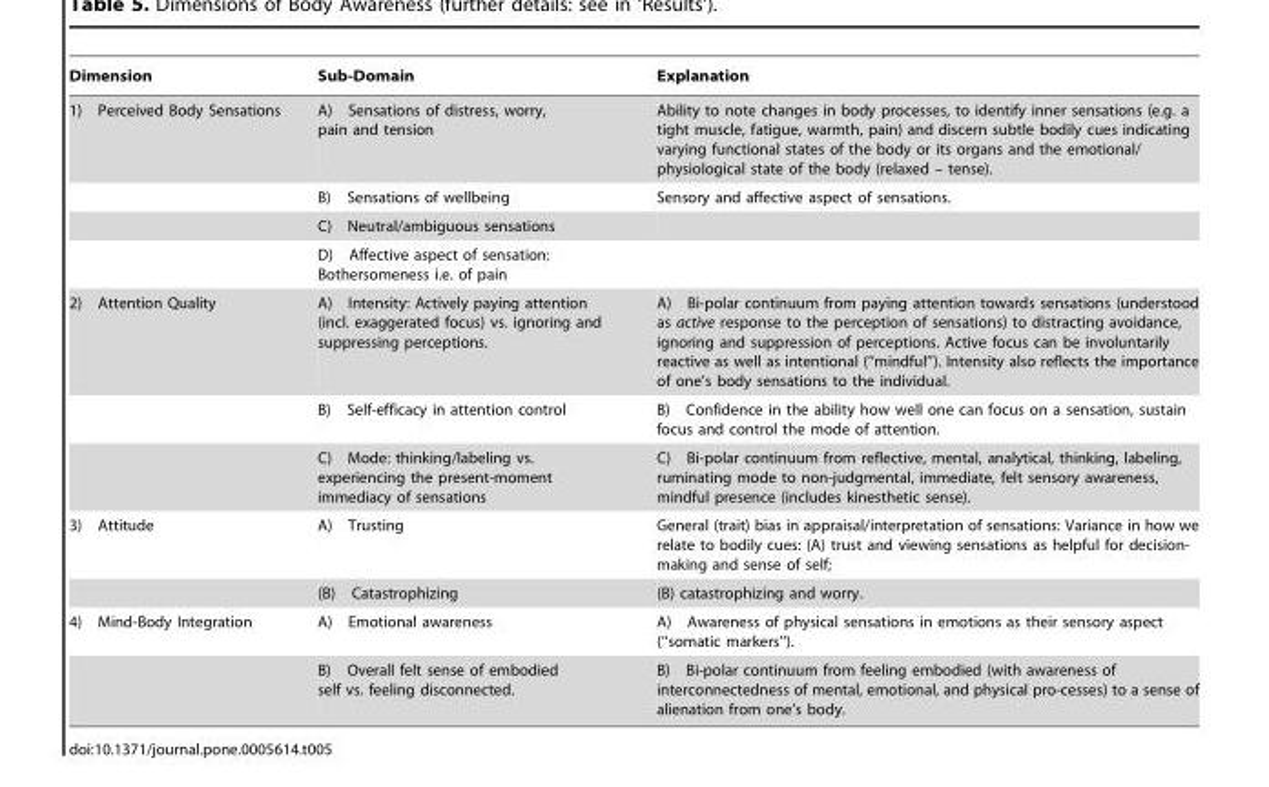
<table><thead><tr><td>Dimension</td><td>Sub-Domain</td><td>Explanation</td></tr></thead><tbody><tr><td rowspan="4">1) Perceived Body Sensations</td><td>A) Sensations of distress, worry, pain and tension</td><td>Ability to note changes in body processes, to identify inner sensations (e.g. a tight muscle, fatigue, warmth, pain) and discern subtle bodily cues indicating varying functional states of the body or its organs and the emotional/ physiological state of the body (relaxed – tense).</td></tr><tr><td>B) Sensations of wellbeing</td><td>Sensory and affective aspect of sensations.</td></tr><tr><td>C) Neutral/ambiguous sensations</td><td></td></tr><tr><td>D) Affective aspect of sensation: Bothersomeness i.e. of pain</td><td></td></tr><tr><td rowspan="3">2) Attention Quality</td><td>A) Intensity: Actively paying attention (incl. exaggerated focus) vs. ignoring and suppressing perceptions.</td><td>A) Bi-polar continuum from paying attention towards sensations (understood as active response to the perception of sensations) to distracting avoidance, ignoring and suppression of perceptions. Active focus can be involuntarily reactive as well as intentional (‘‘mindful’’). Intensity also reflects the importance of one’s body sensations to the individual.</td></tr><tr><td>B) Self-efficacy in attention control</td><td>B) Confidence in the ability how well one can focus on a sensation, sustain focus and control the mode of attention.</td></tr><tr><td>C) Mode: thinking/labeling vs. experiencing the present-moment immediacy of sensations</td><td>C) Bi-polar continuum from reflective, mental, analytical, thinking, labeling, ruminating mode to non-judgmental, immediate, felt sensory awareness, mindful presence (includes kinesthetic sense).</td></tr><tr><td rowspan="2">3) Attitude</td><td>A) Trusting</td><td>General (trait) bias in appraisal/interpretation of sensations: Variance in how we relate to bodily cues: (A) trust and viewing sensations as helpful for decision- making and sense of self;</td></tr><tr><td>(B) Catastrophizing</td><td>(B) catastrophizing and worry.</td></tr><tr><td rowspan="2">4) Mind-Body Integration</td><td>A) Emotional awareness</td><td>A) Awareness of physical sensations in emotions as their sensory aspect (‘‘somatic markers’’).</td></tr><tr><td>B) Overall felt sense of embodied self vs. feeling disconnected.</td><td>B) Bi-polar continuum from feeling embodied (with awareness of interconnectedness of mental, emotional, and physical pro-cesses) to a sense of alienation from one’s body.</td></tr></tbody></table>